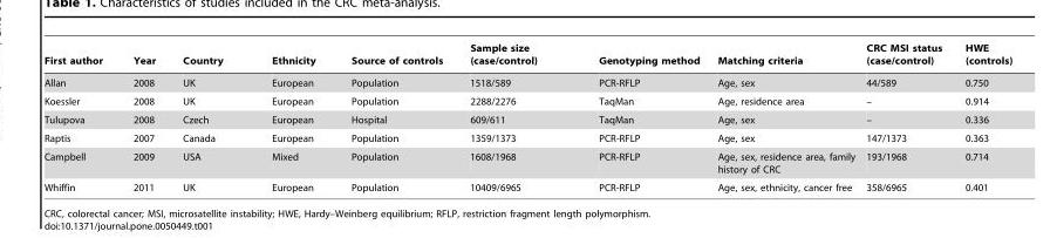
<table><thead><tr><td>First author</td><td>Year</td><td>Country</td><td>Ethnicity</td><td>Source of controls</td><td>Sample size (case/control)</td><td>Genotyping method</td><td>Matching criteria</td><td>CRC MSI status (case/control)</td><td>HWE (controls)</td></tr></thead><tbody><tr><td>Allan</td><td>2008</td><td>UK</td><td>European</td><td>Population</td><td>1518/589</td><td>PCR-RFLP</td><td>Age, sex</td><td>44/589</td><td>0.750</td></tr><tr><td>Koessler</td><td>2008</td><td>UK</td><td>European</td><td>Population</td><td>2288/2276</td><td>TaqMan</td><td>Age, residence area</td><td>–</td><td>0.914</td></tr><tr><td>Tulupova</td><td>2008</td><td>Czech</td><td>European</td><td>Hospital</td><td>609/611</td><td>TaqMan</td><td>Age, sex</td><td>–</td><td>0.336</td></tr><tr><td>Raptis</td><td>2007</td><td>Canada</td><td>European</td><td>Population</td><td>1359/1373</td><td>PCR-RFLP</td><td>Age, sex</td><td>147/1373</td><td>0.363</td></tr><tr><td>Campbell</td><td>2009</td><td>USA</td><td>Mixed</td><td>Population</td><td>1608/1968</td><td>PCR-RFLP</td><td>Age, sex, residence area, family history of CRC</td><td>193/1968</td><td>0.714</td></tr><tr><td>Whiffin</td><td>2011</td><td>UK</td><td>European</td><td>Population</td><td>10409/6965</td><td>PCR-RFLP</td><td>Age, sex, ethnicity, cancer free</td><td>358/6965</td><td>0.401</td></tr></tbody></table>